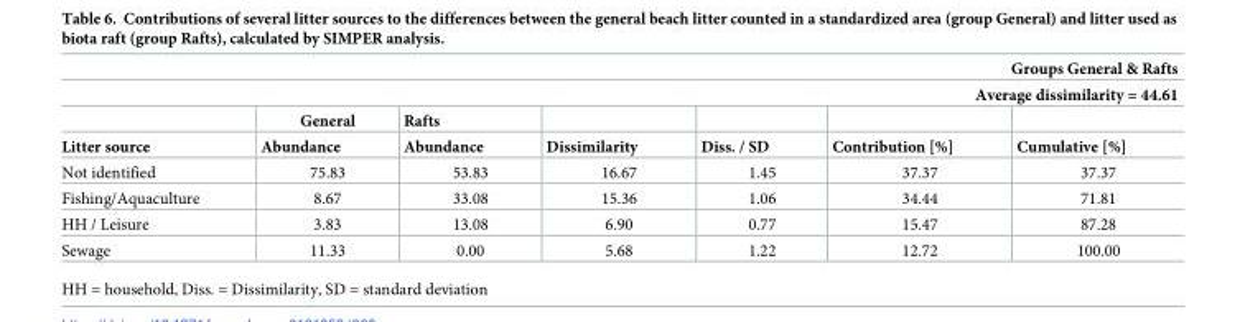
<table><thead><tr><td rowspan="2" colspan="7">Groups General &amp; Rafts Average dissimilarity = 44.61</td></tr><tr></tr><tr><td rowspan="2">Litter source</td><td rowspan="2">General Abundance</td><td rowspan="2">Rafts Abundance</td><td rowspan="2">Dissimilarity</td><td rowspan="2">Diss. / SD</td><td rowspan="2">Contribution [%]</td><td rowspan="2">Cumulative [%]</td></tr><tr></tr></thead><tbody><tr><td>Not identified</td><td>75.83</td><td>53.83</td><td>16.67</td><td>1.45</td><td>37.37</td><td>37.37</td></tr><tr><td>Fishing/Aquaculture</td><td>8.67</td><td>33.08</td><td>15.36</td><td>1.06</td><td>34.44</td><td>71.81</td></tr><tr><td>HH / Leisure</td><td>3.83</td><td>13.08</td><td>6.90</td><td>0.77</td><td>15.47</td><td>87.28</td></tr><tr><td>Sewage</td><td>11.33</td><td>0.00</td><td>5.68</td><td>1.22</td><td>12.72</td><td>100.00</td></tr></tbody></table>